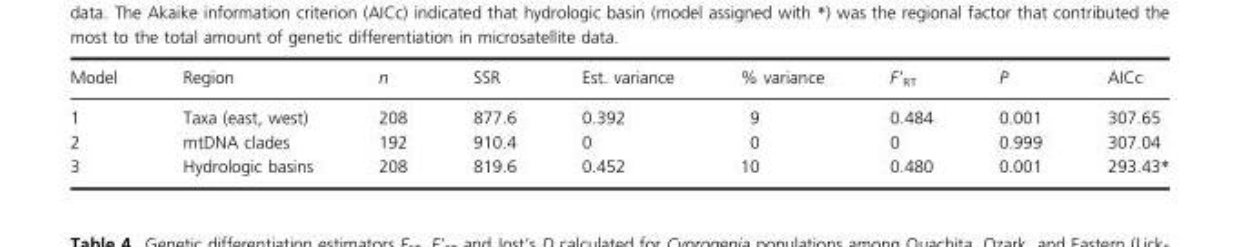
<table><thead><tr><td>Model</td><td>Region</td><td>n</td><td>SSR</td><td>Est. variance</td><td>% variance</td><td>F’<sub>RT</sub></td><td>P</td><td>AICc</td></tr></thead><tbody><tr><td>1</td><td>Taxa (east, west)</td><td>208</td><td>877.6</td><td>0.392</td><td>9</td><td>0.484</td><td>0.001</td><td>307.65</td></tr><tr><td>2</td><td>mtDNA clades</td><td>192</td><td>910.4</td><td>0</td><td>0</td><td>0</td><td>0.999</td><td>307.04</td></tr><tr><td>3</td><td>Hydrologic basins</td><td>208</td><td>819.6</td><td>0.452</td><td>10</td><td>0.480</td><td>0.001</td><td>293.43*</td></tr></tbody></table>